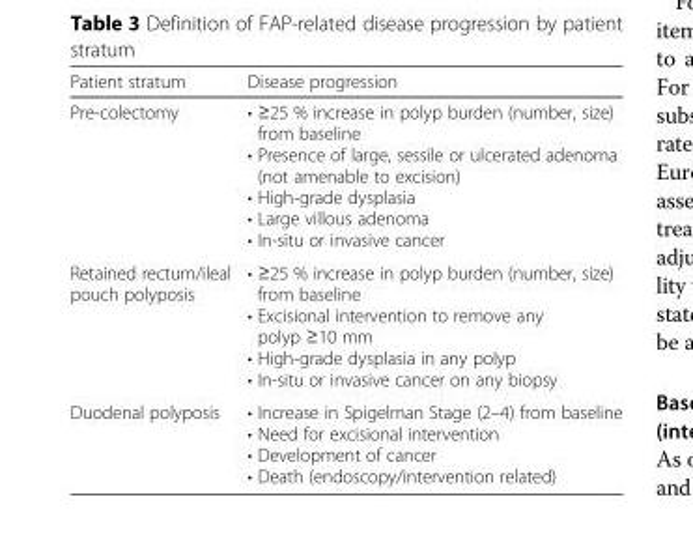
<table><thead><tr><td>Patient stratum</td><td>Disease progression</td></tr></thead><tbody><tr><td>Pre-colectomy</td><td>• ≥25 % increase in polyp burden (number, size) from baseline • Presence of large, sessile or ulcerated adenoma (not amenable to excision) • High-grade dysplasia • Large villous adenoma • In-situ or invasive cancer</td></tr><tr><td>Retained rectum/ileal pouch polyposis</td><td>• ≥25 % increase in polyp burden (number, size) from baseline • Excisional intervention to remove any polyp ≥10 mm • High-grade dysplasia in any polyp • In-situ or invasive cancer on any biopsy</td></tr><tr><td>Duodenal polyposis</td><td>• Increase in Spigelman Stage (2–4) from baseline • Need for excisional intervention • Development of cancer • Death (endoscopy/intervention related)</td></tr></tbody></table>